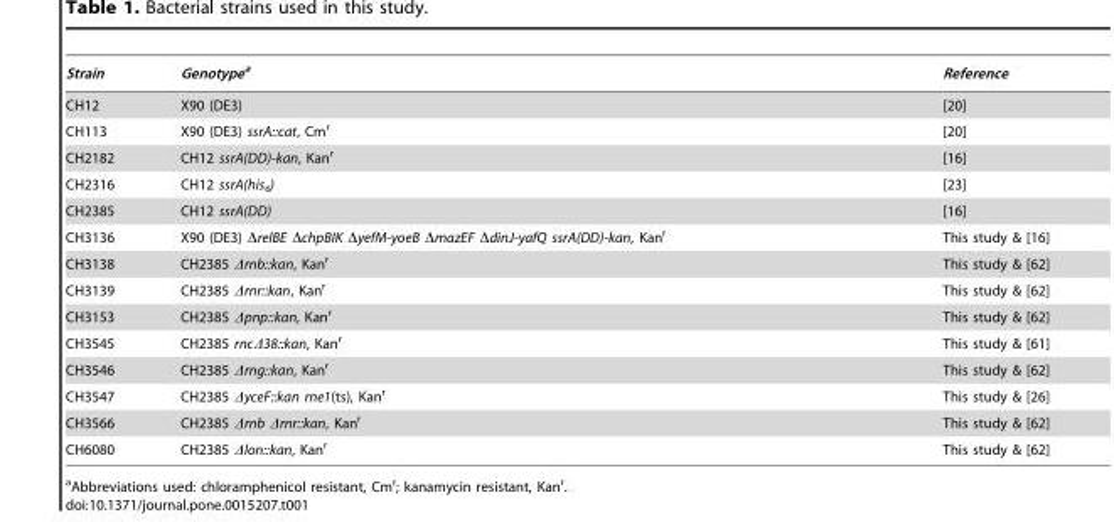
<table><thead><tr><td>Strain</td><td>Genotype<sup>a</sup></td><td>Reference</td></tr></thead><tbody><tr><td>CH12</td><td>X90 (DE3)</td><td>[20]</td></tr><tr><td>CH113</td><td>X90 (DE3) ssrA::cat, Cm<sup>r</sup></td><td>[20]</td></tr><tr><td>CH2182</td><td>CH12 ssrA(DD)-kan, Kan<sup>r</sup></td><td>[16]</td></tr><tr><td>CH2316</td><td>CH12 ssrA(his<sub>6</sub>)</td><td>[23]</td></tr><tr><td>CH2385</td><td>CH12 ssrA(DD)</td><td>[16]</td></tr><tr><td>CH3136</td><td>X90 (DE3) ΔrelBE ΔchpBIK ΔyefM-yoeB ΔmazEF ΔdinJ-yafQ ssrA(DD)-kan, Kan<sup>r</sup></td><td>This study &amp; [16]</td></tr><tr><td>CH3138</td><td>CH2385 Δrnb::kan, Kan<sup>r</sup></td><td>This study &amp; [62]</td></tr><tr><td>CH3139</td><td>CH2385 Δrnr::kan, Kan<sup>r</sup></td><td>This study &amp; [62]</td></tr><tr><td>CH3153</td><td>CH2385 Δpnp::kan, Kan<sup>r</sup></td><td>This study &amp; [62]</td></tr><tr><td>CH3545</td><td>CH2385 rncΔ38::kan, Kan<sup>r</sup></td><td>This study &amp; [61]</td></tr><tr><td>CH3546</td><td>CH2385 Δrng::kan, Kan<sup>r</sup></td><td>This study &amp; [62]</td></tr><tr><td>CH3547</td><td>CH2385 ΔyceF::kan rne1(ts), Kan<sup>r</sup></td><td>This study &amp; [26]</td></tr><tr><td>CH3566</td><td>CH2385 Δrnb Δrnr::kan, Kan<sup>r</sup></td><td>This study &amp; [62]</td></tr><tr><td>CH6080</td><td>CH2385 Δlon::kan, Kan<sup>r</sup></td><td>This study &amp; [62]</td></tr></tbody></table>